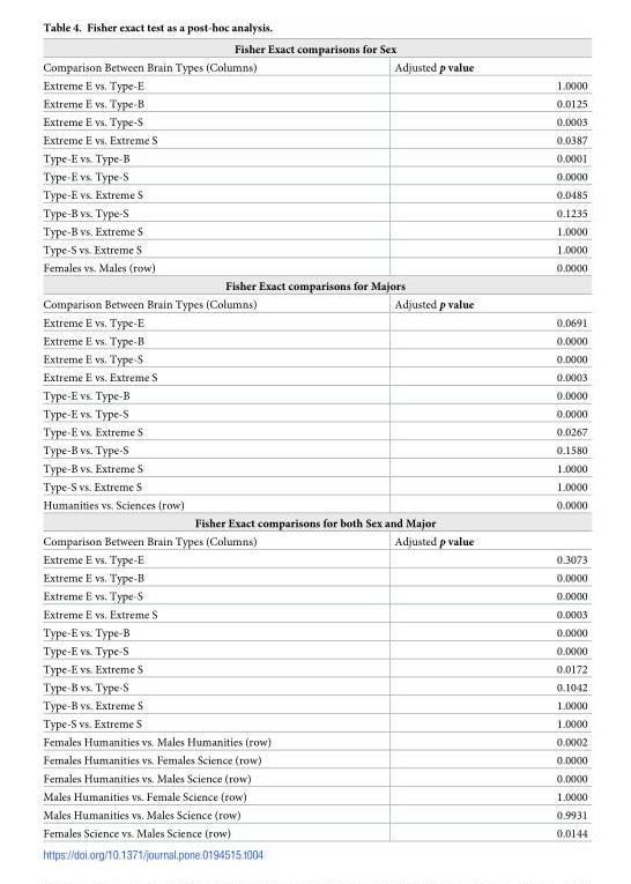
<table><tbody><tr><td colspan="2">Fisher Exact comparisons for Sex</td></tr><tr><td>Comparison Between Brain Types (Columns)</td><td>Adjusted p value</td></tr><tr><td>Extreme E vs. Type-E</td><td>1.0000</td></tr><tr><td>Extreme E vs. Type-B</td><td>0.0125</td></tr><tr><td>Extreme E vs. Type-S</td><td>0.0003</td></tr><tr><td>Extreme E vs. Extreme S</td><td>0.0387</td></tr><tr><td>Type-E vs. Type-B</td><td>0.0001</td></tr><tr><td>Type-E vs. Type-S</td><td>0.0000</td></tr><tr><td>Type-E vs. Extreme S</td><td>0.0485</td></tr><tr><td>Type-B vs. Type-S</td><td>0.1235</td></tr><tr><td>Type-B vs. Extreme S</td><td>1.0000</td></tr><tr><td>Type-S vs. Extreme S</td><td>1.0000</td></tr><tr><td>Females vs. Males (row)</td><td>0.0000</td></tr><tr><td colspan="2">Fisher Exact comparisons for Majors</td></tr><tr><td>Comparison Between Brain Types (Columns)</td><td>Adjusted p value</td></tr><tr><td>Extreme E vs. Type-E</td><td>0.0691</td></tr><tr><td>Extreme E vs. Type-B</td><td>0.0000</td></tr><tr><td>Extreme E vs. Type-S</td><td>0.0000</td></tr><tr><td>Extreme E vs. Extreme S</td><td>0.0003</td></tr><tr><td>Type-E vs. Type-B</td><td>0.0000</td></tr><tr><td>Type-E vs. Type-S</td><td>0.0000</td></tr><tr><td>Type-E vs. Extreme S</td><td>0.0267</td></tr><tr><td>Type-B vs. Type-S</td><td>0.1580</td></tr><tr><td>Type-B vs. Extreme S</td><td>1.0000</td></tr><tr><td>Type-S vs. Extreme S</td><td>1.0000</td></tr><tr><td>Humanities vs. Sciences (row)</td><td>0.0000</td></tr><tr><td colspan="2">Fisher Exact comparisons for both Sex and Major</td></tr><tr><td>Comparison Between Brain Types (Columns)</td><td>Adjusted p value</td></tr><tr><td>Extreme E vs. Type-E</td><td>0.3073</td></tr><tr><td>Extreme E vs. Type-B</td><td>0.0000</td></tr><tr><td>Extreme E vs. Type-S</td><td>0.0000</td></tr><tr><td>Extreme E vs. Extreme S</td><td>0.0003</td></tr><tr><td>Type-E vs. Type-B</td><td>0.0000</td></tr><tr><td>Type-E vs. Type-S</td><td>0.0000</td></tr><tr><td>Type-E vs. Extreme S</td><td>0.0172</td></tr><tr><td>Type-B vs. Type-S</td><td>0.1042</td></tr><tr><td>Type-B vs. Extreme S</td><td>1.0000</td></tr><tr><td>Type-S vs. Extreme S</td><td>1.0000</td></tr><tr><td>Females Humanities vs. Males Humanities (row)</td><td>0.0002</td></tr><tr><td>Females Humanities vs. Females Science (row)</td><td>0.0000</td></tr><tr><td>Females Humanities vs. Males Science (row)</td><td>0.0000</td></tr><tr><td>Males Humanities vs. Female Science (row)</td><td>1.0000</td></tr><tr><td>Males Humanities vs. Males Science (row)</td><td>0.9931</td></tr><tr><td>Females Science vs. Males Science (row)</td><td>0.0144</td></tr></tbody></table>